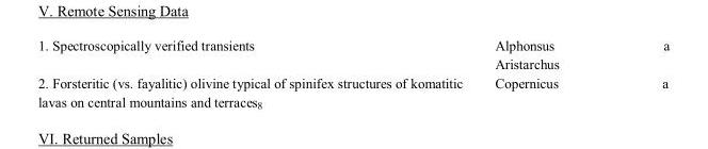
<table><tbody><tr><td>1. Spectroscopically verified transients</td><td>Alphonsus Aristarchus</td><td>a</td></tr><tr><td>2. Forsteritic (vs. fayalitic) olivine typical of spinifex structures of komatitic lavas on central mountains and terraces<sup>8</sup></td><td>Copernicus</td><td>a</td></tr></tbody></table>